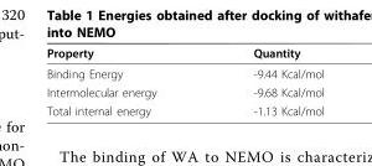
<table><thead><tr><td>Property</td><td>Quantity</td></tr></thead><tbody><tr><td>Binding Energy</td><td>-9.44 Kcal/mol</td></tr><tr><td>Intermolecular energy</td><td>-9.68 Kcal/mol</td></tr><tr><td>Total internal energy</td><td>-1.13 Kcal/mol</td></tr></tbody></table>